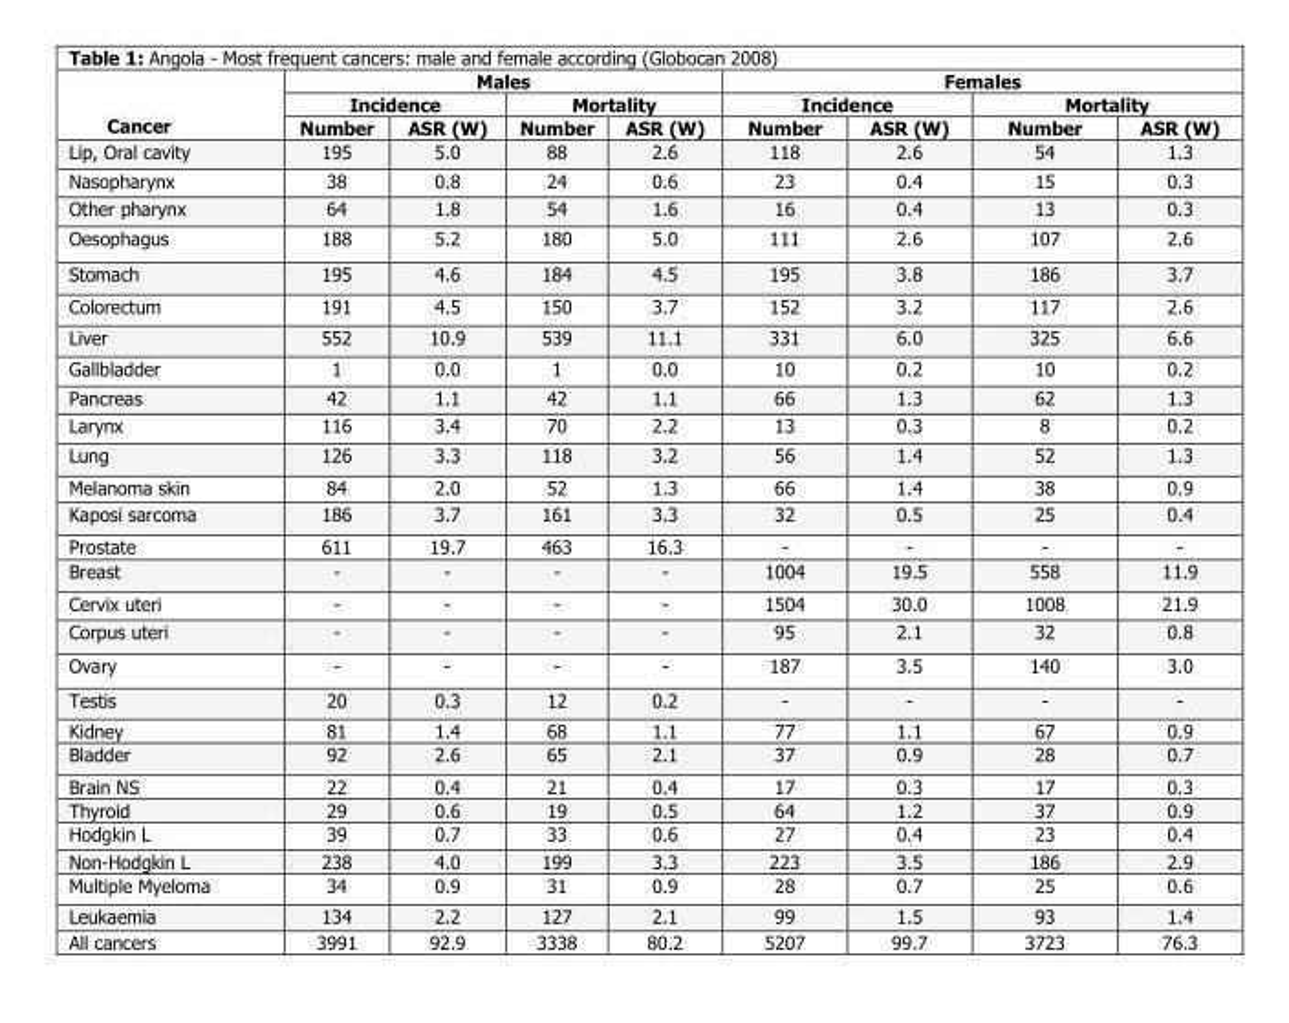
<table><thead><tr><td rowspan="3">Cancer</td><td colspan="4">Males</td><td colspan="4">Females</td></tr><tr><td colspan="2">Incidence</td><td colspan="2">Mortality</td><td colspan="2">Incidence</td><td colspan="2">Mortality</td></tr><tr><td>Number</td><td>ASR (W)</td><td>Number</td><td>ASR (W)</td><td>Number</td><td>ASR (W)</td><td>Number</td><td>ASR (W)</td></tr></thead><tbody><tr><td>Lip, Oral cavity</td><td>195</td><td>5.0</td><td>88</td><td>2.6</td><td>118</td><td>2.6</td><td>54</td><td>1.3</td></tr><tr><td>Nasopharynx</td><td>38</td><td>0.8</td><td>24</td><td>0.6</td><td>23</td><td>0.4</td><td>15</td><td>0.3</td></tr><tr><td>Other pharynx</td><td>64</td><td>1.8</td><td>54</td><td>1.6</td><td>16</td><td>0.4</td><td>13</td><td>0.3</td></tr><tr><td>Oesophagus</td><td>188</td><td>5.2</td><td>180</td><td>5.0</td><td>111</td><td>2.6</td><td>107</td><td>2.6</td></tr><tr><td>Stomach</td><td>195</td><td>4.6</td><td>184</td><td>4.5</td><td>195</td><td>3.8</td><td>186</td><td>3.7</td></tr><tr><td>Colorectum</td><td>191</td><td>4.5</td><td>150</td><td>3.7</td><td>152</td><td>3.2</td><td>117</td><td>2.6</td></tr><tr><td>Liver</td><td>552</td><td>10.9</td><td>539</td><td>11.1</td><td>331</td><td>6.0</td><td>325</td><td>6.6</td></tr><tr><td>Gallbladder</td><td>1</td><td>0.0</td><td>1</td><td>0.0</td><td>10</td><td>0.2</td><td>10</td><td>0.2</td></tr><tr><td>Pancreas</td><td>42</td><td>1.1</td><td>42</td><td>1.1</td><td>66</td><td>1.3</td><td>62</td><td>1.3</td></tr><tr><td>Larynx</td><td>116</td><td>3.4</td><td>70</td><td>2.2</td><td>13</td><td>0.3</td><td>8</td><td>0.2</td></tr><tr><td>Lung</td><td>126</td><td>3.3</td><td>118</td><td>3.2</td><td>56</td><td>1.4</td><td>52</td><td>1.3</td></tr><tr><td>Melanoma skin</td><td>84</td><td>2.0</td><td>52</td><td>1.3</td><td>66</td><td>1.4</td><td>38</td><td>0.9</td></tr><tr><td>Kaposi sarcoma</td><td>186</td><td>3.7</td><td>161</td><td>3.3</td><td>32</td><td>0.5</td><td>25</td><td>0.4</td></tr><tr><td>Prostate</td><td>611</td><td>19.7</td><td>463</td><td>16.3</td><td>-</td><td>-</td><td>-</td><td>-</td></tr><tr><td>Breast</td><td>-</td><td>-</td><td>-</td><td>-</td><td>1004</td><td>19.5</td><td>558</td><td>11.9</td></tr><tr><td>Cervix uteri</td><td>-</td><td>-</td><td>-</td><td>-</td><td>1504</td><td>30.0</td><td>1008</td><td>21.9</td></tr><tr><td>Corpus uteri</td><td>-</td><td>-</td><td>-</td><td>-</td><td>95</td><td>2.1</td><td>32</td><td>0.8</td></tr><tr><td>Ovary</td><td>-</td><td>-</td><td>-</td><td>-</td><td>187</td><td>3.5</td><td>140</td><td>3.0</td></tr><tr><td>Testis</td><td>20</td><td>0.3</td><td>12</td><td>0.2</td><td>-</td><td>-</td><td>-</td><td>-</td></tr><tr><td>Kidney</td><td>81</td><td>1.4</td><td>68</td><td>1.1</td><td>77</td><td>1.1</td><td>67</td><td>0.9</td></tr><tr><td>Bladder</td><td>92</td><td>2.6</td><td>65</td><td>2.1</td><td>37</td><td>0.9</td><td>28</td><td>0.7</td></tr><tr><td>Brain NS</td><td>22</td><td>0.4</td><td>21</td><td>0.4</td><td>17</td><td>0.3</td><td>17</td><td>0.3</td></tr><tr><td>Thyroid</td><td>29</td><td>0.6</td><td>19</td><td>0.5</td><td>64</td><td>1.2</td><td>37</td><td>0.9</td></tr><tr><td>Hodgkin L</td><td>39</td><td>0.7</td><td>33</td><td>0.6</td><td>27</td><td>0.4</td><td>23</td><td>0.4</td></tr><tr><td>Non-Hodgkin L</td><td>238</td><td>4.0</td><td>199</td><td>3.3</td><td>223</td><td>3.5</td><td>186</td><td>2.9</td></tr><tr><td>Multiple Myeloma</td><td>34</td><td>0.9</td><td>31</td><td>0.9</td><td>28</td><td>0.7</td><td>25</td><td>0.6</td></tr><tr><td>Leukaemia</td><td>134</td><td>2.2</td><td>127</td><td>2.1</td><td>99</td><td>1.5</td><td>93</td><td>1.4</td></tr><tr><td>All cancers</td><td>3991</td><td>92.9</td><td>3338</td><td>80.2</td><td>5207</td><td>99.7</td><td>3723</td><td>76.3</td></tr></tbody></table>